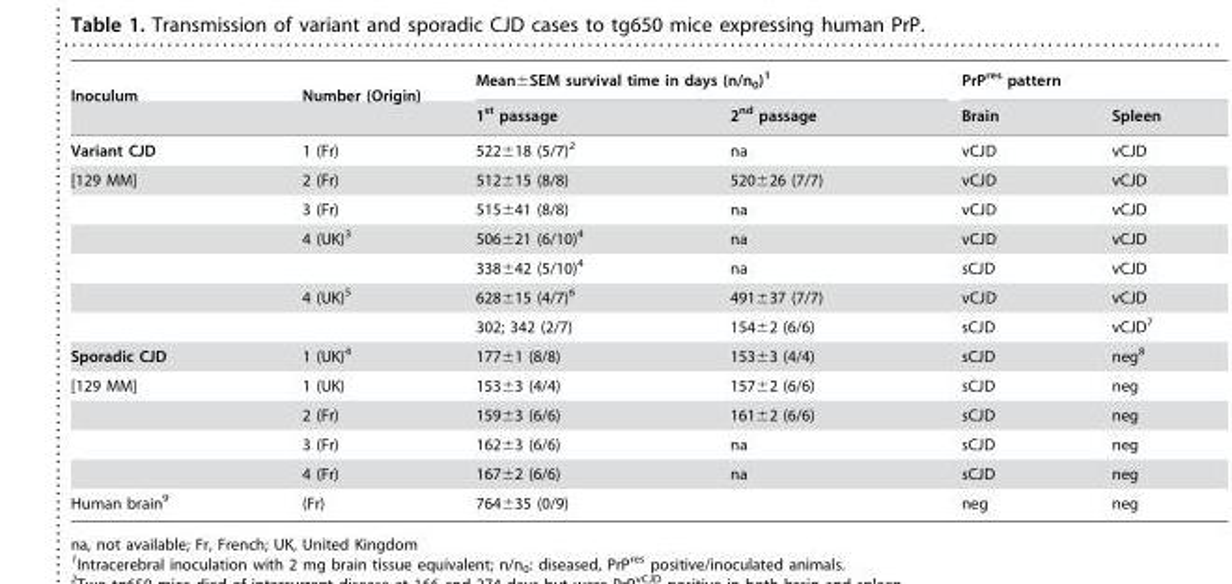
<table><thead><tr><td rowspan="2">Inoculum</td><td rowspan="2">Number (Origin)</td><td colspan="2">Mean±SEM survival time in days (n/n<sub>0</sub>)<sup>1</sup></td><td colspan="2">PrP<sup>res</sup> pattern</td></tr><tr><td>1<sup>st</sup> passage</td><td>2<sup>nd</sup> passage</td><td>Brain</td><td>Spleen</td></tr></thead><tbody><tr><td>Variant CJD</td><td>1 (Fr)</td><td>522±18 (5/7)<sup>2</sup></td><td>na</td><td>vCJD</td><td>vCJD</td></tr><tr><td rowspan="6">[129 MM]</td><td>2 (Fr)</td><td>512±15 (8/8)</td><td>520±26 (7/7)</td><td>vCJD</td><td>vCJD</td></tr><tr><td>3 (Fr)</td><td>515±41 (8/8)</td><td>na</td><td>vCJD</td><td>vCJD</td></tr><tr><td>4 (UK)<sup>3</sup></td><td>506±21 (6/10)<sup>4</sup></td><td>na</td><td>vCJD</td><td>vCJD</td></tr><tr><td></td><td>338±42 (5/10)<sup>4</sup></td><td>na</td><td>sCJD</td><td>vCJD</td></tr><tr><td>4 (UK)<sup>5</sup></td><td>628±15 (4/7)<sup>6</sup></td><td>491±37 (7/7)</td><td>vCJD</td><td>vCJD</td></tr><tr><td></td><td>302; 342 (2/7)</td><td>154±2 (6/6)</td><td>sCJD</td><td>vCJD<sup>7</sup></td></tr><tr><td>Sporadic CJD</td><td>1 (UK)<sup>4</sup></td><td>177±1 (8/8)</td><td>153±3 (4/4)</td><td>sCJD</td><td>neg<sup>8</sup></td></tr><tr><td rowspan="4">[129 MM]</td><td>1 (UK)</td><td>153±3 (4/4)</td><td>157±2 (6/6)</td><td>sCJD</td><td>neg</td></tr><tr><td>2 (Fr)</td><td>159±3 (6/6)</td><td>161±2 (6/6)</td><td>sCJD</td><td>neg</td></tr><tr><td>3 (Fr)</td><td>162±3 (6/6)</td><td>na</td><td>sCJD</td><td>neg</td></tr><tr><td>4 (Fr)</td><td>167±2 (6/6)</td><td>na</td><td>sCJD</td><td>neg</td></tr><tr><td>Human brain<sup>9</sup></td><td>(Fr)</td><td>764±35 (0/9)</td><td></td><td>neg</td><td>neg</td></tr></tbody></table>